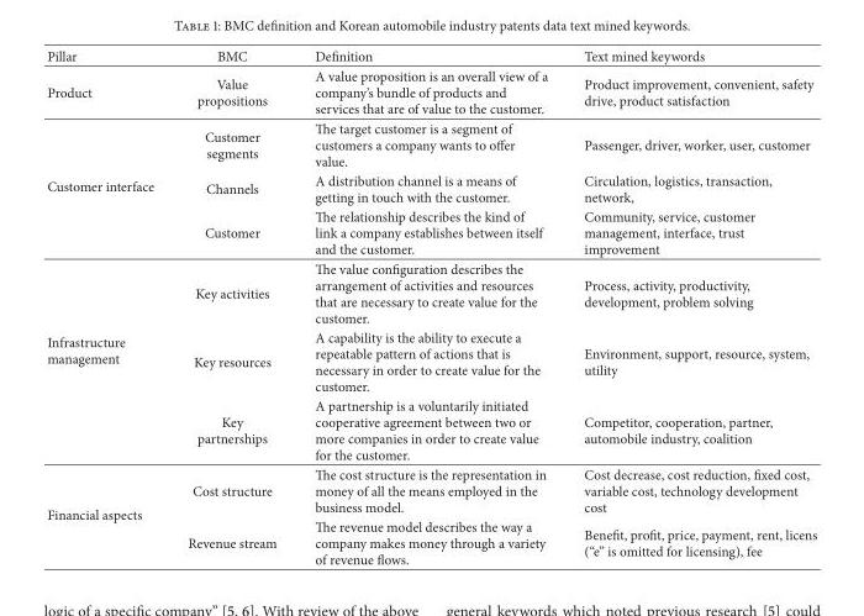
<table><thead><tr><td>Pillar</td><td>BMC</td><td>Definition</td><td>Text mined keywords</td></tr></thead><tbody><tr><td>Product</td><td>Value propositions</td><td>A value proposition is an overall view of a company’s bundle of products and services that are of value to the customer.</td><td>Product improvement, convenient, safety drive, product satisfaction</td></tr><tr><td rowspan="3">Customer interface</td><td>Customer segments</td><td>The target customer is a segment of customers a company wants to offer value.</td><td>Passenger, driver, worker, user, customer</td></tr><tr><td>Channels</td><td>A distribution channel is a means of getting in touch with the customer.</td><td>Circulation, logistics, transaction, network,</td></tr><tr><td>Customer</td><td>The relationship describes the kind of link a company establishes between itself and the customer.</td><td>Community, service, customer management, interface, trust improvement</td></tr><tr><td rowspan="3">Infrastructure management</td><td>Key activities</td><td>The value configuration describes the arrangement of activities and resources that are necessary to create value for the customer.</td><td>Process, activity, productivity, development, problem solving</td></tr><tr><td>Key resources</td><td>A capability is the ability to execute a repeatable pattern of actions that is necessary in order to create value for the customer.</td><td>Environment, support, resource, system, utility</td></tr><tr><td>Key partnerships</td><td>A partnership is a voluntarily initiated cooperative agreement between two or more companies in order to create value for the customer.</td><td>Competitor, cooperation, partner, automobile industry, coalition</td></tr><tr><td rowspan="2">Financial aspects</td><td>Cost structure</td><td>The cost structure is the representation in money of all the means employed in the business model.</td><td>Cost decrease, cost reduction, fixed cost, variable cost, technology development cost</td></tr><tr><td>Revenue stream</td><td>The revenue model describes the way a company makes money through a variety of revenue flows.</td><td>Benefit, profit, price, payment, rent, licens (“e” is omitted for licensing), fee</td></tr></tbody></table>